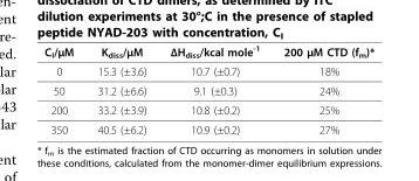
<table><thead><tr><td>C<sub>I</sub>/μM</td><td>K<sub>diss</sub>/μM</td><td>ΔH<sub>diss</sub>/kcal mole<sup>-1</sup></td><td>200 μM CTD (f<sub>m</sub>)*</td></tr></thead><tbody><tr><td>0</td><td>15.3 (±3.6)</td><td>10.7 (±0.7)</td><td>18%</td></tr><tr><td>50</td><td>31.2 (±6.6)</td><td>9.1 (±0.3)</td><td>24%</td></tr><tr><td>200</td><td>33.2 (±3.9)</td><td>10.8 (±0.2)</td><td>25%</td></tr><tr><td>350</td><td>40.5 (±6.2)</td><td>10.9 (±0.2)</td><td>27%</td></tr></tbody></table>